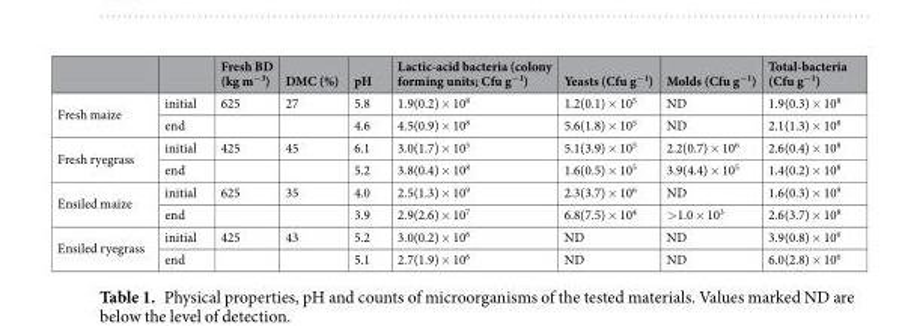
<table><thead><tr><td></td><td></td><td>Fresh BD (kg m<sup>−3</sup>)</td><td>DMC (%)</td><td>pH</td><td>Lactic-acid bacteria (colony forming units; Cfu g<sup>−1</sup>)</td><td>Yeasts (Cfu g<sup>−1</sup>)</td><td>Molds (Cfu g<sup>−1</sup>)</td><td>Total-bacteria (Cfu g<sup>−1</sup>)</td></tr></thead><tbody><tr><td rowspan="2">Fresh maize</td><td>initial</td><td>625</td><td>27</td><td>5.8</td><td>1.9(0.2) × 10<sup>8</sup></td><td>1.2(0.1) × 10<sup>5</sup></td><td>ND</td><td>1.9(0.3) × 10<sup>8</sup></td></tr><tr><td>end</td><td></td><td></td><td>4.6</td><td>4.5(0.9) × 10<sup>8</sup></td><td>5.6(1.8) × 10<sup>5</sup></td><td>ND</td><td>2.1(1.3) × 10<sup>8</sup></td></tr><tr><td rowspan="2">Fresh ryegrass</td><td>initial</td><td>425</td><td>45</td><td>6.1</td><td>3.0(1.7) × 10<sup>5</sup></td><td>5.1(3.9) × 10<sup>5</sup></td><td>2.2(0.7) × 10<sup>6</sup></td><td>2.6(0.4) × 10<sup>8</sup></td></tr><tr><td>end</td><td></td><td></td><td>5.2</td><td>3.8(0.4) × 10<sup>8</sup></td><td>1.6(0.5) × 10<sup>5</sup></td><td>3.9(4.4) × 10<sup>5</sup></td><td>1.4(0.2) × 10<sup>8</sup></td></tr><tr><td rowspan="2">Ensiled maize</td><td>initial</td><td>625</td><td>35</td><td>4.0</td><td>2.5(1.3) × 10<sup>9</sup></td><td>2.3(3.7) × 10<sup>6</sup></td><td>ND</td><td>1.6(0.3) × 10<sup>9</sup></td></tr><tr><td>end</td><td></td><td></td><td>3.9</td><td>2.9(2.6) × 10<sup>7</sup></td><td>6.8(7.5) × 10<sup>4</sup></td><td>&gt;1.0 × 10<sup>3</sup></td><td>2.6(3.7) × 10<sup>8</sup></td></tr><tr><td rowspan="2">Ensiled ryegrass</td><td>initial</td><td>425</td><td>43</td><td>5.2</td><td>3.0(0.2) × 10<sup>6</sup></td><td>ND</td><td>ND</td><td>3.9(0.8) × 10<sup>6</sup></td></tr><tr><td>end</td><td></td><td></td><td>5.1</td><td>2.7(1.9) × 10<sup>6</sup></td><td>ND</td><td>ND</td><td>6.0(2.8) × 10<sup>6</sup></td></tr></tbody></table>